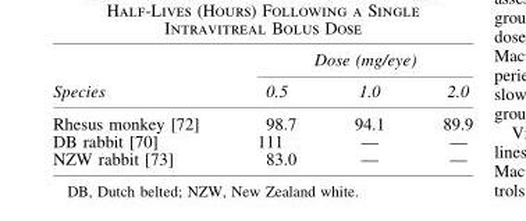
<table><thead><tr><td rowspan="2">Species</td><td colspan="3">Dose (mg/eye)</td></tr><tr><td>0.5</td><td>1.0</td><td>2.0</td></tr></thead><tbody><tr><td>Rhesus monkey [72]</td><td>98.7</td><td>94.1</td><td>89.9</td></tr><tr><td>DB rabbit [70]</td><td>111</td><td>—</td><td>—</td></tr><tr><td>NZW rabbit [73]</td><td>83.0</td><td>—</td><td>—</td></tr></tbody></table>